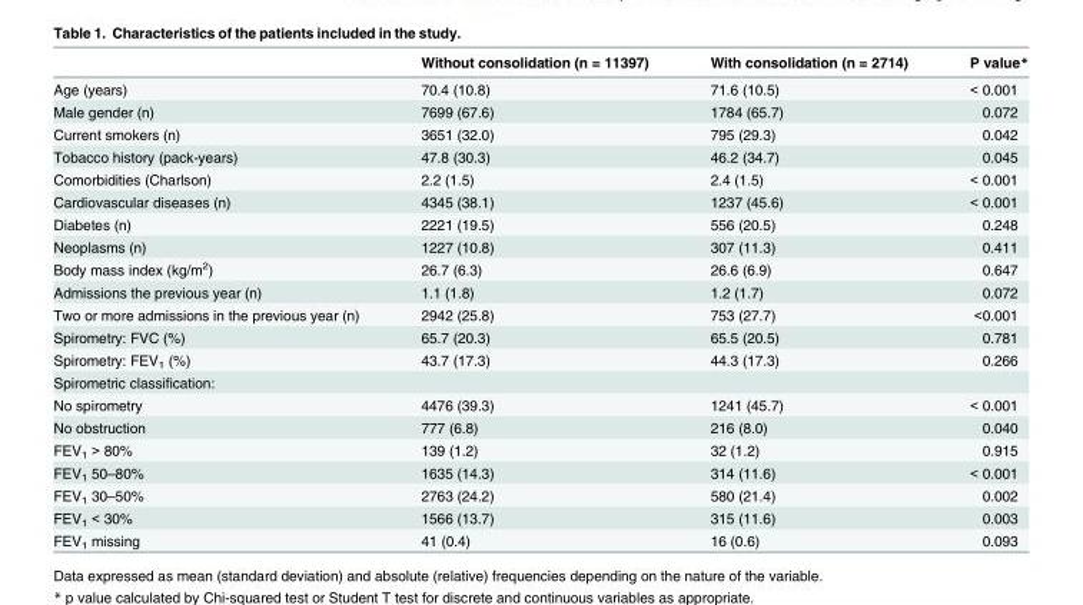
<table><thead><tr><td></td><td>Without consolidation (n = 11397)</td><td>With consolidation (n = 2714)</td><td>P value*</td></tr></thead><tbody><tr><td>Age (years)</td><td>70.4 (10.8)</td><td>71.6 (10.5)</td><td>&lt; 0.001</td></tr><tr><td>Male gender (n)</td><td>7699 (67.6)</td><td>1784 (65.7)</td><td>0.072</td></tr><tr><td>Current smokers (n)</td><td>3651 (32.0)</td><td>795 (29.3)</td><td>0.042</td></tr><tr><td>Tobacco history (pack-years)</td><td>47.8 (30.3)</td><td>46.2 (34.7)</td><td>0.045</td></tr><tr><td>Comorbidities (Charlson)</td><td>2.2 (1.5)</td><td>2.4 (1.5)</td><td>&lt; 0.001</td></tr><tr><td>Cardiovascular diseases (n)</td><td>4345 (38.1)</td><td>1237 (45.6)</td><td>&lt; 0.001</td></tr><tr><td>Diabetes (n)</td><td>2221 (19.5)</td><td>556 (20.5)</td><td>0.248</td></tr><tr><td>Neoplasms (n)</td><td>1227 (10.8)</td><td>307 (11.3)</td><td>0.411</td></tr><tr><td>Body mass index (kg/m<sup>2</sup>)</td><td>26.7 (6.3)</td><td>26.6 (6.9)</td><td>0.647</td></tr><tr><td>Admissions the previous year (n)</td><td>1.1 (1.8)</td><td>1.2 (1.7)</td><td>0.072</td></tr><tr><td>Two or more admissions in the previous year (n)</td><td>2942 (25.8)</td><td>753 (27.7)</td><td>&lt;0.001</td></tr><tr><td>Spirometry: FVC (%)</td><td>65.7 (20.3)</td><td>65.5 (20.5)</td><td>0.781</td></tr><tr><td>Spirometry: FEV<sub>1</sub> (%)</td><td>43.7 (17.3)</td><td>44.3 (17.3)</td><td>0.266</td></tr><tr><td colspan="4">Spirometric classification:</td></tr><tr><td>No spirometry</td><td>4476 (39.3)</td><td>1241 (45.7)</td><td>&lt; 0.001</td></tr><tr><td>No obstruction</td><td>777 (6.8)</td><td>216 (8.0)</td><td>0.040</td></tr><tr><td>FEV<sub>1</sub> &gt; 80%</td><td>139 (1.2)</td><td>32 (1.2)</td><td>0.915</td></tr><tr><td>FEV<sub>1</sub> 50–80%</td><td>1635 (14.3)</td><td>314 (11.6)</td><td>&lt; 0.001</td></tr><tr><td>FEV<sub>1</sub> 30–50%</td><td>2763 (24.2)</td><td>580 (21.4)</td><td>0.002</td></tr><tr><td>FEV<sub>1</sub> &lt; 30%</td><td>1566 (13.7)</td><td>315 (11.6)</td><td>0.003</td></tr><tr><td>FEV<sub>1</sub> missing</td><td>41 (0.4)</td><td>16 (0.6)</td><td>0.093</td></tr></tbody></table>